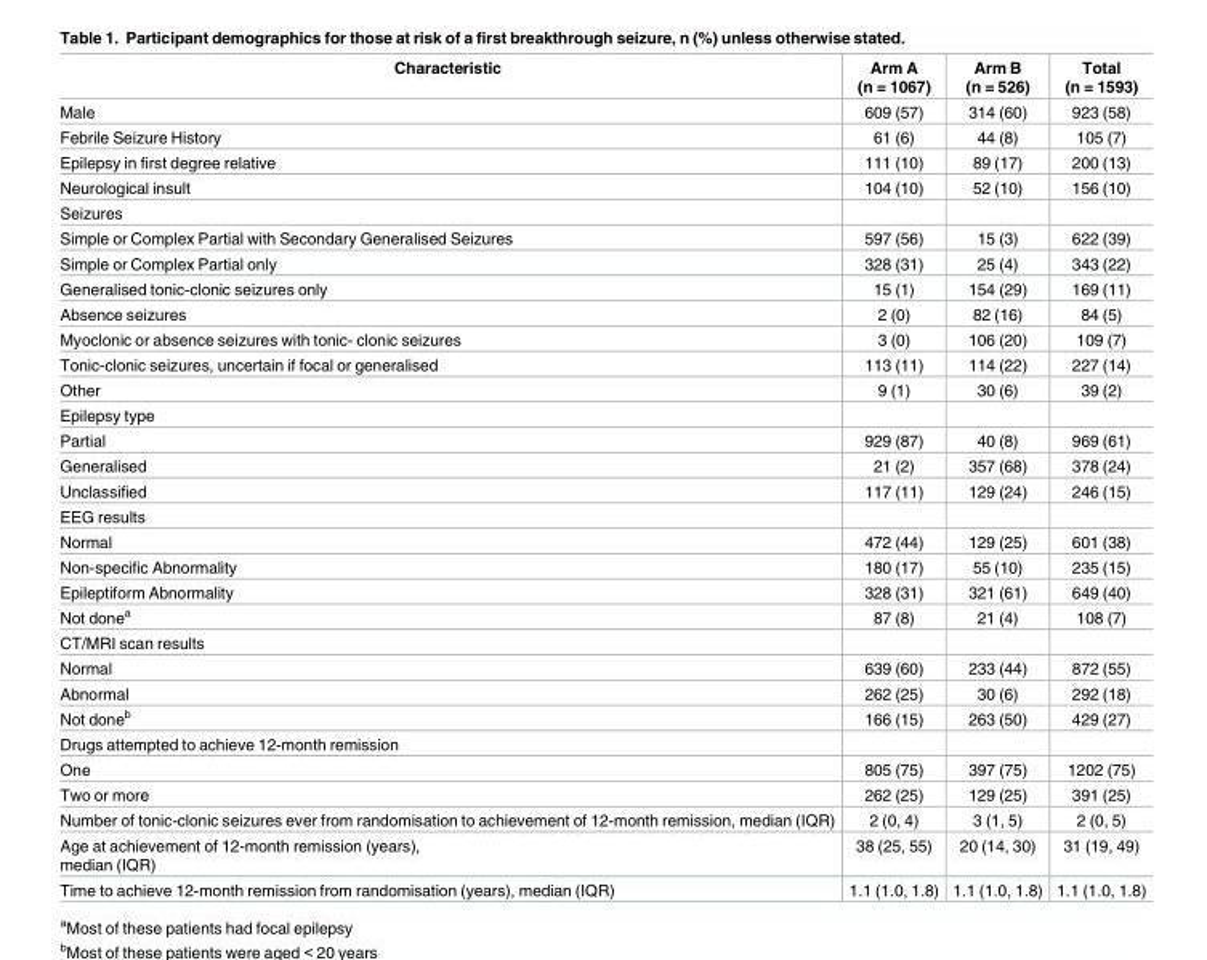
<table><thead><tr><td>Characteristic</td><td>Arm A (n = 1067)</td><td>Arm B (n = 526)</td><td>Total (n = 1593)</td></tr></thead><tbody><tr><td>Male</td><td>609 (57)</td><td>314 (60)</td><td>923 (58)</td></tr><tr><td>Febrile Seizure History</td><td>61 (6)</td><td>44 (8)</td><td>105 (7)</td></tr><tr><td>Epilepsy in first degree relative</td><td>111 (10)</td><td>89 (17)</td><td>200 (13)</td></tr><tr><td>Neurological insult</td><td>104 (10)</td><td>52 (10)</td><td>156 (10)</td></tr><tr><td colspan="4">Seizures</td></tr><tr><td>Simple or Complex Partial with Secondary Generalised Seizures</td><td>597 (56)</td><td>15 (3)</td><td>622 (39)</td></tr><tr><td>Simple or Complex Partial only</td><td>328 (31)</td><td>25 (4)</td><td>343 (22)</td></tr><tr><td>Generalised tonic-clonic seizures only</td><td>15 (1)</td><td>154 (29)</td><td>169 (11)</td></tr><tr><td>Absence seizures</td><td>2 (0)</td><td>82 (16)</td><td>84 (5)</td></tr><tr><td>Myoclonic or absence seizures with tonic- clonic seizures</td><td>3 (0)</td><td>106 (20)</td><td>109 (7)</td></tr><tr><td>Tonic-clonic seizures, uncertain if focal or generalised</td><td>113 (11)</td><td>114 (22)</td><td>227 (14)</td></tr><tr><td>Other</td><td>9 (1)</td><td>30 (6)</td><td>39 (2)</td></tr><tr><td colspan="4">Epilepsy type</td></tr><tr><td>Partial</td><td>929 (87)</td><td>40 (8)</td><td>969 (61)</td></tr><tr><td>Generalised</td><td>21 (2)</td><td>357 (68)</td><td>378 (24)</td></tr><tr><td>Unclassified</td><td>117 (11)</td><td>129 (24)</td><td>246 (15)</td></tr><tr><td colspan="4">EEG results</td></tr><tr><td>Normal</td><td>472 (44)</td><td>129 (25)</td><td>601 (38)</td></tr><tr><td>Non-specific Abnormality</td><td>180 (17)</td><td>55 (10)</td><td>235 (15)</td></tr><tr><td>Epileptiform Abnormality</td><td>328 (31)</td><td>321 (61)</td><td>649 (40)</td></tr><tr><td>Not done<sup>a</sup></td><td>87 (8)</td><td>21 (4)</td><td>108 (7)</td></tr><tr><td colspan="4">CT/MRI scan results</td></tr><tr><td>Normal</td><td>639 (60)</td><td>233 (44)</td><td>872 (55)</td></tr><tr><td>Abnormal</td><td>262 (25)</td><td>30 (6)</td><td>292 (18)</td></tr><tr><td>Not done<sup>b</sup></td><td>166 (15)</td><td>263 (50)</td><td>429 (27)</td></tr><tr><td colspan="4">Drugs attempted to achieve 12-month remission</td></tr><tr><td>One</td><td>805 (75)</td><td>397 (75)</td><td>1202 (75)</td></tr><tr><td>Two or more</td><td>262 (25)</td><td>129 (25)</td><td>391 (25)</td></tr><tr><td>Number of tonic-clonic seizures ever from randomisation to achievement of 12-month remission, median (IQR)</td><td>2 (0, 4)</td><td>3 (1, 5)</td><td>2 (0, 5)</td></tr><tr><td>Age at achievement of 12-month remission (years), median (IQR)</td><td>38 (25, 55)</td><td>20 (14, 30)</td><td>31 (19, 49)</td></tr><tr><td>Time to achieve 12-month remission from randomisation (years), median (IQR)</td><td>1.1 (1.0, 1.8)</td><td>1.1 (1.0, 1.8)</td><td>1.1 (1.0, 1.8)</td></tr></tbody></table>